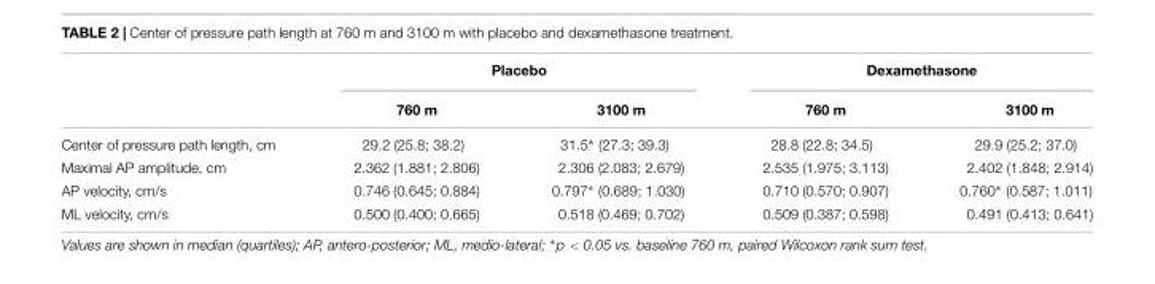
<table><thead><tr><td rowspan="2"></td><td colspan="2">Placebo</td><td colspan="2">Dexamethasone</td></tr><tr><td>760 m</td><td>3100 m</td><td>760 m</td><td>3100 m</td></tr></thead><tbody><tr><td>Center of pressure path length, cm</td><td>29.2 (25.8; 38.2)</td><td>31.5∗ (27.3; 39.3)</td><td>28.8 (22.8; 34.5)</td><td>29.9 (25.2; 37.0)</td></tr><tr><td>Maximal AP amplitude, cm</td><td>2.362 (1.881; 2.806)</td><td>2.306 (2.083; 2.679)</td><td>2.535 (1.975; 3.113)</td><td>2.402 (1.848; 2.914)</td></tr><tr><td>AP velocity, cm/s</td><td>0.746 (0.645; 0.884)</td><td>0.797∗ (0.689; 1.030)</td><td>0.710 (0.570; 0.907)</td><td>0.760∗ (0.587; 1.011)</td></tr><tr><td>ML velocity, cm/s</td><td>0.500 (0.400; 0.665)</td><td>0.518 (0.469; 0.702)</td><td>0.509 (0.387; 0.598)</td><td>0.491 (0.413; 0.641)</td></tr></tbody></table>